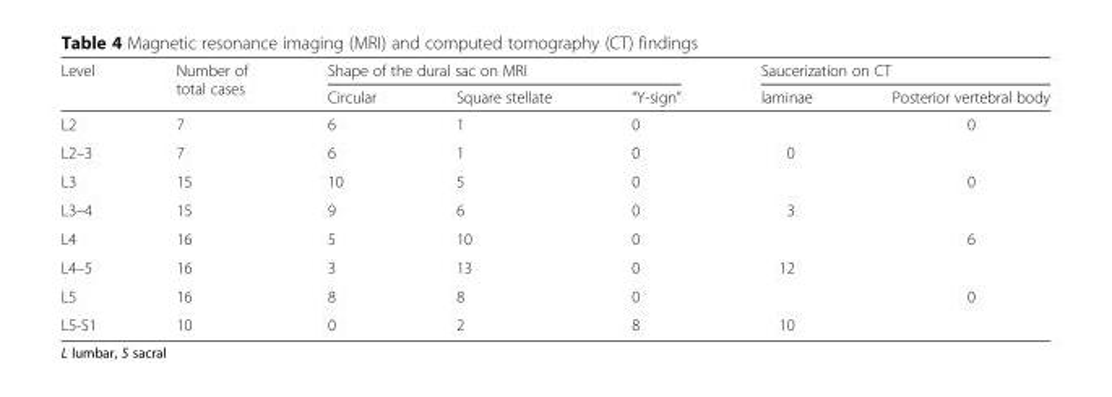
<table><thead><tr><td rowspan="2">Level</td><td rowspan="2">Number of total cases</td><td colspan="3">Shape of the dural sac on MRI</td><td colspan="2">Saucerization on CT</td></tr><tr><td>Circular</td><td>Square stellate</td><td>“Y-sign”</td><td>laminae</td><td>Posterior vertebral body</td></tr></thead><tbody><tr><td>L2</td><td>7</td><td>6</td><td>1</td><td>0</td><td></td><td>0</td></tr><tr><td>L2–3</td><td>7</td><td>6</td><td>1</td><td>0</td><td>0</td><td></td></tr><tr><td>L3</td><td>15</td><td>10</td><td>5</td><td>0</td><td></td><td>0</td></tr><tr><td>L3–4</td><td>15</td><td>9</td><td>6</td><td>0</td><td>3</td><td></td></tr><tr><td>L4</td><td>16</td><td>5</td><td>10</td><td>0</td><td></td><td>6</td></tr><tr><td>L4–5</td><td>16</td><td>3</td><td>13</td><td>0</td><td>12</td><td></td></tr><tr><td>L5</td><td>16</td><td>8</td><td>8</td><td>0</td><td></td><td>0</td></tr><tr><td>L5-S1</td><td>10</td><td>0</td><td>2</td><td>8</td><td>10</td><td></td></tr></tbody></table>